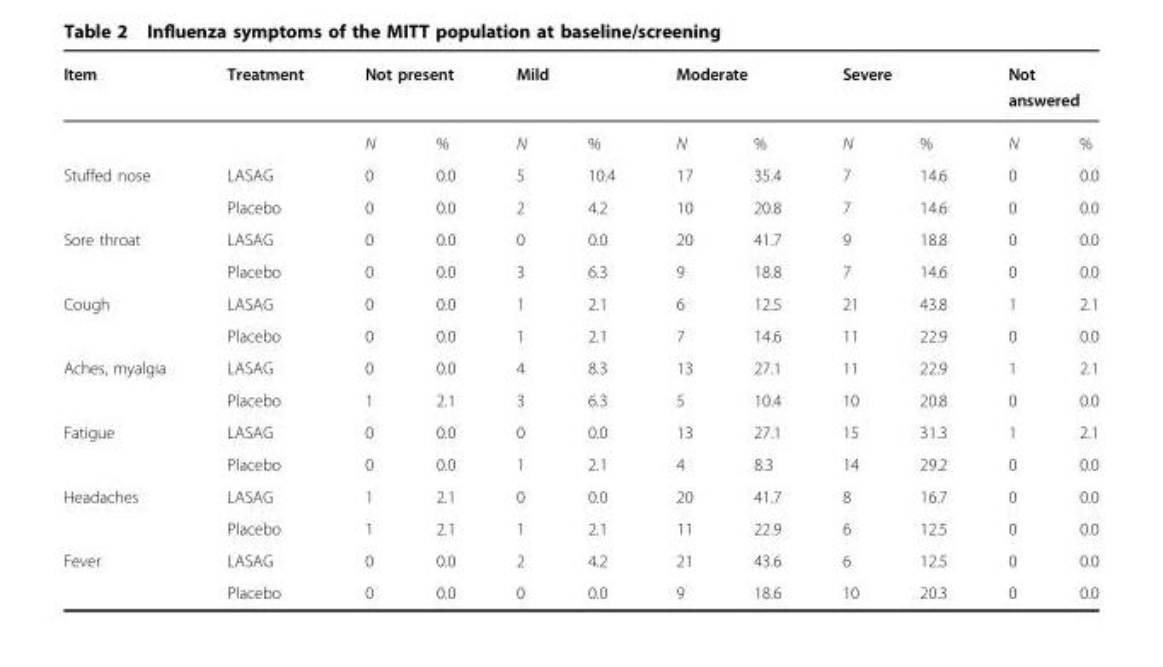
<table><thead><tr><td rowspan="2">Item</td><td rowspan="2">Treatment</td><td colspan="2">Not present</td><td colspan="2">Mild</td><td colspan="2">Moderate</td><td colspan="2">Severe</td><td colspan="2">Not answered</td></tr><tr><td>N</td><td>%</td><td>N</td><td>%</td><td>N</td><td>%</td><td>N</td><td>%</td><td>N</td><td>%</td></tr></thead><tbody><tr><td rowspan="2">Stuffed nose</td><td>LASAG</td><td>0</td><td>0.0</td><td>5</td><td>10.4</td><td>17</td><td>35.4</td><td>7</td><td>14.6</td><td>0</td><td>0.0</td></tr><tr><td>Placebo</td><td>0</td><td>0.0</td><td>2</td><td>4.2</td><td>10</td><td>20.8</td><td>7</td><td>14.6</td><td>0</td><td>0.0</td></tr><tr><td rowspan="2">Sore throat</td><td>LASAG</td><td>0</td><td>0.0</td><td>0</td><td>0.0</td><td>20</td><td>41.7</td><td>9</td><td>18.8</td><td>0</td><td>0.0</td></tr><tr><td>Placebo</td><td>0</td><td>0.0</td><td>3</td><td>6.3</td><td>9</td><td>18.8</td><td>7</td><td>14.6</td><td>0</td><td>0.0</td></tr><tr><td rowspan="2">Cough</td><td>LASAG</td><td>0</td><td>0.0</td><td>1</td><td>2.1</td><td>6</td><td>12.5</td><td>21</td><td>43.8</td><td>1</td><td>2.1</td></tr><tr><td>Placebo</td><td>0</td><td>0.0</td><td>1</td><td>2.1</td><td>7</td><td>14.6</td><td>11</td><td>22.9</td><td>0</td><td>0.0</td></tr><tr><td rowspan="2">Aches, myalgia</td><td>LASAG</td><td>0</td><td>0.0</td><td>4</td><td>8.3</td><td>13</td><td>27.1</td><td>11</td><td>22.9</td><td>1</td><td>2.1</td></tr><tr><td>Placebo</td><td>1</td><td>2.1</td><td>3</td><td>6.3</td><td>5</td><td>10.4</td><td>10</td><td>20.8</td><td>0</td><td>0.0</td></tr><tr><td rowspan="2">Fatigue</td><td>LASAG</td><td>0</td><td>0.0</td><td>0</td><td>0.0</td><td>13</td><td>27.1</td><td>15</td><td>31.3</td><td>1</td><td>2.1</td></tr><tr><td>Placebo</td><td>0</td><td>0.0</td><td>1</td><td>2.1</td><td>4</td><td>8.3</td><td>14</td><td>29.2</td><td>0</td><td>0.0</td></tr><tr><td rowspan="2">Headaches</td><td>LASAG</td><td>1</td><td>2.1</td><td>0</td><td>0.0</td><td>20</td><td>41.7</td><td>8</td><td>16.7</td><td>0</td><td>0.0</td></tr><tr><td>Placebo</td><td>1</td><td>2.1</td><td>1</td><td>2.1</td><td>11</td><td>22.9</td><td>6</td><td>12.5</td><td>0</td><td>0.0</td></tr><tr><td rowspan="2">Fever</td><td>LASAG</td><td>0</td><td>0.0</td><td>2</td><td>4.2</td><td>21</td><td>43.6</td><td>6</td><td>12.5</td><td>0</td><td>0.0</td></tr><tr><td>Placebo</td><td>0</td><td>0.0</td><td>0</td><td>0.0</td><td>9</td><td>18.6</td><td>10</td><td>20.3</td><td>0</td><td>0.0</td></tr></tbody></table>